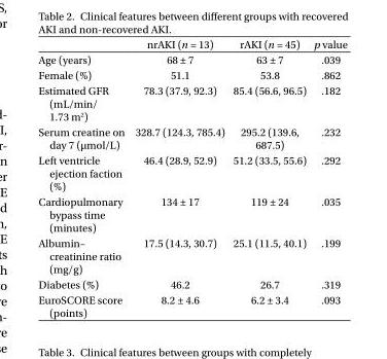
<table><thead><tr><td></td><td>nrAKI (n = 13)</td><td>rAKI (n = 45)</td><td>p value</td></tr></thead><tbody><tr><td>Age (years)</td><td>68 ± 7</td><td>63 ± 7</td><td>.039</td></tr><tr><td>Female (%)</td><td>51.1</td><td>53.8</td><td>.862</td></tr><tr><td>Estimated GFR (mL/min/ 1.73 m2)</td><td>78.3 (37.9, 92.3)</td><td>85.4 (56.6, 96.5)</td><td>.182</td></tr><tr><td>Serum creatine on day 7 (µmol/L)</td><td>328.7 (124.3, 785.4)</td><td>295.2 (139.6, 687.5)</td><td>.232</td></tr><tr><td>Left ventricle ejection faction (%)</td><td>46.4 (28.9, 52.9)</td><td>51.2 (33.5, 55.6)</td><td>.292</td></tr><tr><td>Cardiopulmonary bypass time (minutes)</td><td>134 ± 17</td><td>119 ± 24</td><td>.035</td></tr><tr><td>Albumin– creatinine ratio (mg/g)</td><td>17.5 (14.3, 30.7)</td><td>25.1 (11.5, 40.1)</td><td>.199</td></tr><tr><td>Diabetes (%)</td><td>46.2</td><td>26.7</td><td>.319</td></tr><tr><td>EuroSCORE score (points)</td><td>8.2 ± 4.6</td><td>6.2 ± 3.4</td><td>.093</td></tr></tbody></table>